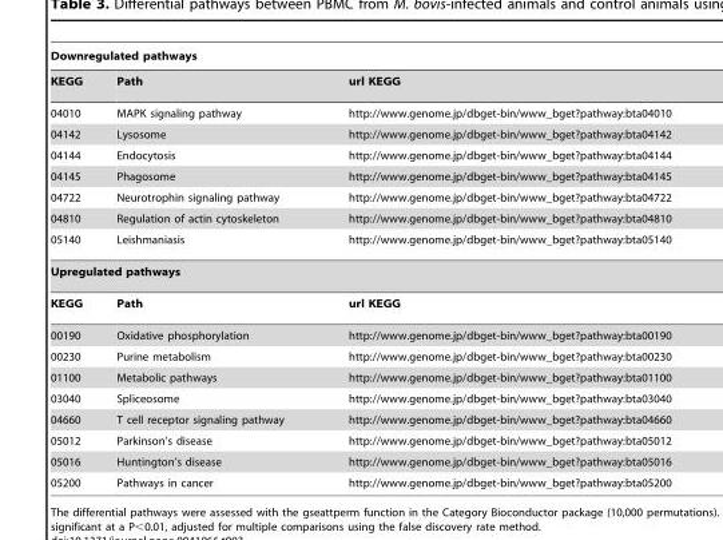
<table><thead><tr><td colspan="3">Downregulated pathways</td></tr><tr><td>KEGG</td><td>Path</td><td>url KEGG</td></tr></thead><tbody><tr><td>04010</td><td>MAPK signaling pathway</td><td>http://www.genome.jp/dbget-bin/www_bget?pathway:bta04010</td></tr><tr><td>04142</td><td>Lysosome</td><td>http://www.genome.jp/dbget-bin/www_bget?pathway:bta04142</td></tr><tr><td>04144</td><td>Endocytosis</td><td>http://www.genome.jp/dbget-bin/www_bget?pathway:bta04144</td></tr><tr><td>04145</td><td>Phagosome</td><td>http://www.genome.jp/dbget-bin/www_bget?pathway:bta04145</td></tr><tr><td>04722</td><td>Neurotrophin signaling pathway</td><td>http://www.genome.jp/dbget-bin/www_bget?pathway:bta04722</td></tr><tr><td>04810</td><td>Regulation of actin cytoskeleton</td><td>http://www.genome.jp/dbget-bin/www_bget?pathway:bta04810</td></tr><tr><td>05140</td><td>Leishmaniasis</td><td>http://www.genome.jp/dbget-bin/www_bget?pathway:bta05140</td></tr><tr><td colspan="3">Upregulated pathways</td></tr><tr><td>KEGG</td><td>Path</td><td>url KEGG</td></tr><tr><td>00190</td><td>Oxidative phosphorylation</td><td>http://www.genome.jp/dbget-bin/www_bget?pathway:bta00190</td></tr><tr><td>00230</td><td>Purine metabolism</td><td>http://www.genome.jp/dbget-bin/www_bget?pathway:bta00230</td></tr><tr><td>01100</td><td>Metabolic pathways</td><td>http://www.genome.jp/dbget-bin/www_bget?pathway:bta01100</td></tr><tr><td>03040</td><td>Spliceosome</td><td>http://www.genome.jp/dbget-bin/www_bget?pathway:bta03040</td></tr><tr><td>04660</td><td>T cell receptor signaling pathway</td><td>http://www.genome.jp/dbget-bin/www_bget?pathway:bta04660</td></tr><tr><td>05012</td><td>Parkinson’s disease</td><td>http://www.genome.jp/dbget-bin/www_bget?pathway:bta05012</td></tr><tr><td>05016</td><td>Huntington’s disease</td><td>http://www.genome.jp/dbget-bin/www_bget?pathway:bta05016</td></tr><tr><td>05200</td><td>Pathways in cancer</td><td>http://www.genome.jp/dbget-bin/www_bget?pathway:bta05200</td></tr></tbody></table>